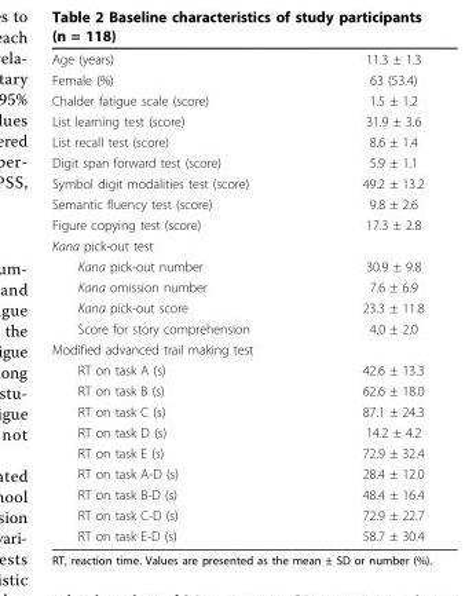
<table><tbody><tr><td>Age (years)</td><td>11.3 ± 1.3</td></tr><tr><td>Female (%)</td><td>63 (53.4)</td></tr><tr><td>Chalder fatigue scale (score)</td><td>1.5 ± 1.2</td></tr><tr><td>List learning test (score)</td><td>31.9 ± 3.6</td></tr><tr><td>List recall test (score)</td><td>8.6 ± 1.4</td></tr><tr><td>Digit span forward test (score)</td><td>5.9 ± 1.1</td></tr><tr><td>Symbol digit modalities test (score)</td><td>49.2 ± 13.2</td></tr><tr><td>Semantic fluency test (score)</td><td>9.8 ± 2.6</td></tr><tr><td>Figure copying test (score)</td><td>17.3 ± 2.8</td></tr><tr><td colspan="2">Kana pick-out test</td></tr><tr><td>Kana pick-out number</td><td>30.9 ± 9.8</td></tr><tr><td>Kana omission number</td><td>7.6 ± 6.9</td></tr><tr><td>Kana pick-out score</td><td>23.3 ± 11.8</td></tr><tr><td>Score for story comprehension</td><td>4.0 ± 2.0</td></tr><tr><td colspan="2">Modified advanced trail making test</td></tr><tr><td>RT on task A (s)</td><td>42.6 ± 13.3</td></tr><tr><td>RT on task B (s)</td><td>62.6 ± 18.0</td></tr><tr><td>RT on task C (s)</td><td>87.1 ± 24.3</td></tr><tr><td>RT on task D (s)</td><td>14.2 ± 4.2</td></tr><tr><td>RT on task E (s)</td><td>72.9 ± 32.4</td></tr><tr><td>RT on task A-D (s)</td><td>28.4 ± 12.0</td></tr><tr><td>RT on task B-D (s)</td><td>48.4 ± 16.4</td></tr><tr><td>RT on task C-D (s)</td><td>72.9 ± 22.7</td></tr><tr><td>RT on task E-D (s)</td><td>58.7 ± 30.4</td></tr></tbody></table>